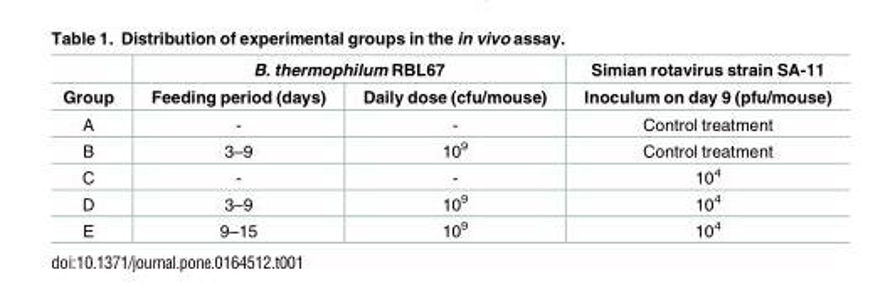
<table><thead><tr><td rowspan="2">Group</td><td colspan="2">B. thermophilum RBL67</td><td rowspan="2">Simian rotavirus strain SA-11 Inoculum on day 9 (pfu/mouse)</td></tr><tr><td>Feeding period (days)</td><td>Daily dose (cfu/mouse)</td></tr></thead><tbody><tr><td>A</td><td>-</td><td>-</td><td>Control treatment</td></tr><tr><td>B</td><td>3–9</td><td>10<sup>9</sup></td><td>Control treatment</td></tr><tr><td>C</td><td>-</td><td>-</td><td>10<sup>4</sup></td></tr><tr><td>D</td><td>3–9</td><td>10<sup>9</sup></td><td>10<sup>4</sup></td></tr><tr><td>E</td><td>9–15</td><td>10<sup>9</sup></td><td>10<sup>4</sup></td></tr></tbody></table>